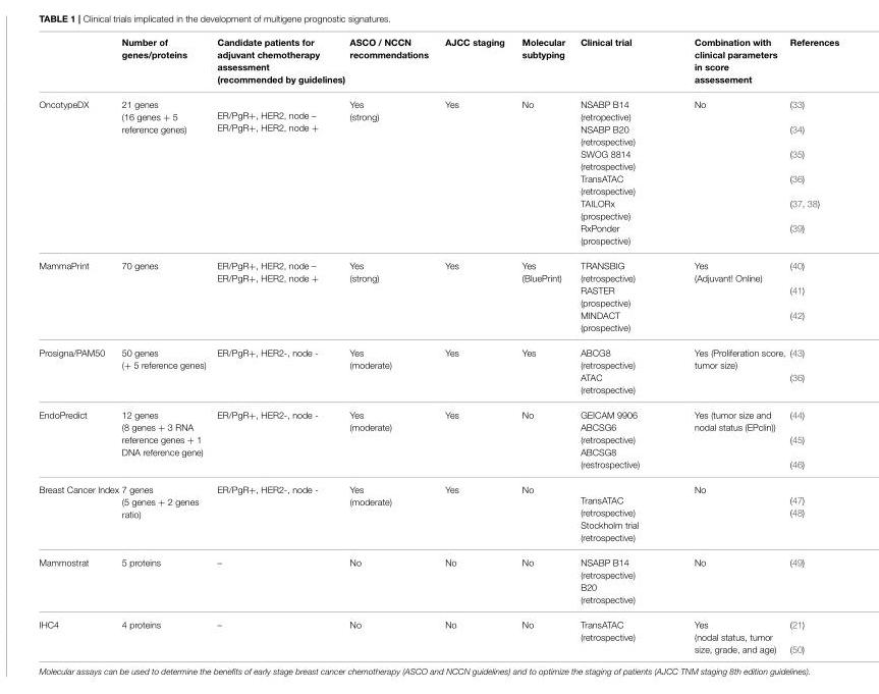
<table><thead><tr><td></td><td>Number of genes/proteins</td><td>Candidate patients for adjuvant chemotherapy assessment (recommended by guidelines)</td><td>ASCO / NCCN recommendations</td><td>AJCC staging</td><td>Molecular subtyping</td><td>Clinical trial</td><td>Combination with clinical parameters in score assessement</td><td>References</td></tr></thead><tbody><tr><td>OncotypeDX</td><td>21 genes (16 genes + 5 reference genes)</td><td>ER/PgR+, HER2, node – ER/PgR+, HER2, node +</td><td>Yes (strong)</td><td>Yes</td><td>No</td><td>NSABP B14 (retropective) NSABP B20 (retrospective) SWOG 8814 (retrospective) TransATAC (retrospective) TAILORx (prospective) RxPonder (prospective)</td><td>No</td><td>(33) (34) (35) (36) (37, 38) (39)</td></tr><tr><td>MammaPrint</td><td>70 genes</td><td>ER/PgR+, HER2, node – ER/PgR+, HER2, node +</td><td>Yes (strong)</td><td>Yes</td><td>Yes (BluePrint)</td><td>TRANSBIG (retrospective) RASTER (prospective) MINDACT (prospective)</td><td>Yes (Adjuvant! Online)</td><td>(40) (41) (42)</td></tr><tr><td>Prosigna/PAM50</td><td>50 genes (+ 5 reference genes)</td><td>ER/PgR+, HER2-, node -</td><td>Yes (moderate)</td><td>Yes</td><td>Yes</td><td>ABCG8 (retrospective) ATAC (retrospective)</td><td>Yes (Proliferation score, tumor size)</td><td>(43) (36)</td></tr><tr><td>EndoPredict</td><td>12 genes (8 genes + 3 RNA reference genes + 1 DNA reference gene)</td><td>ER/PgR+, HER2-, node -</td><td>Yes (moderate)</td><td>Yes</td><td>No</td><td>GEICAM 9906 ABCSG6 (retrospective) ABCSG8 (restrospective)</td><td>Yes (tumor size and nodal status (EPclin))</td><td>(44) (45) (46)</td></tr><tr><td>Breast Cancer Index</td><td>7 genes (5 genes + 2 genes ratio)</td><td>ER/PgR+, HER2-, node -</td><td>Yes (moderate)</td><td>Yes</td><td>No</td><td>TransATAC (retrospective) Stockholm trial (retrospective)</td><td>No</td><td>(47) (48)</td></tr><tr><td>Mammostrat</td><td>5 proteins</td><td>–</td><td>No</td><td>No</td><td>No</td><td>NSABP B14 (retrospective) B20 (retrospective)</td><td>No</td><td>(49)</td></tr><tr><td>IHC4</td><td>4 proteins</td><td>–</td><td>No</td><td>No</td><td>No</td><td>TransATAC (retrospective)</td><td>Yes (nodal status, tumor size, grade, and age)</td><td>(21) (50)</td></tr></tbody></table>